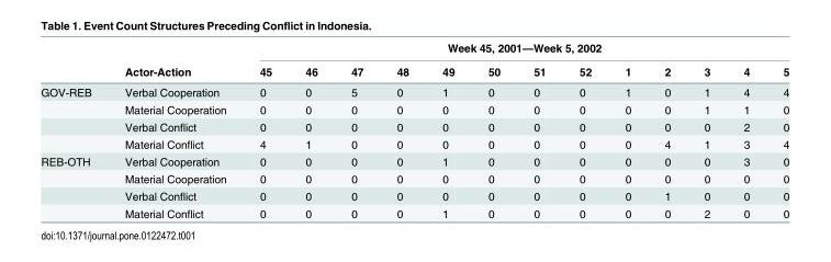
<table><thead><tr><td rowspan="2"></td><td rowspan="2">Actor-Action</td><td colspan="13">Week 45, 2001—Week 5, 2002</td></tr><tr><td>45</td><td>46</td><td>47</td><td>48</td><td>49</td><td>50</td><td>51</td><td>52</td><td>1</td><td>2</td><td>3</td><td>4</td><td>5</td></tr></thead><tbody><tr><td rowspan="4">GOV-REB</td><td>Verbal Cooperation</td><td>0</td><td>0</td><td>5</td><td>0</td><td>1</td><td>0</td><td>0</td><td>0</td><td>1</td><td>0</td><td>1</td><td>4</td><td>4</td></tr><tr><td>Material Cooperation</td><td>0</td><td>0</td><td>0</td><td>0</td><td>0</td><td>0</td><td>0</td><td>0</td><td>0</td><td>0</td><td>1</td><td>1</td><td>0</td></tr><tr><td>Verbal Conflict</td><td>0</td><td>0</td><td>0</td><td>0</td><td>0</td><td>0</td><td>0</td><td>0</td><td>0</td><td>0</td><td>0</td><td>2</td><td>0</td></tr><tr><td>Material Conflict</td><td>4</td><td>1</td><td>0</td><td>0</td><td>0</td><td>0</td><td>0</td><td>0</td><td>0</td><td>4</td><td>1</td><td>3</td><td>4</td></tr><tr><td rowspan="4">REB-OTH</td><td>Verbal Cooperation</td><td>0</td><td>0</td><td>0</td><td>0</td><td>1</td><td>0</td><td>0</td><td>0</td><td>0</td><td>0</td><td>0</td><td>3</td><td>0</td></tr><tr><td>Material Cooperation</td><td>0</td><td>0</td><td>0</td><td>0</td><td>0</td><td>0</td><td>0</td><td>0</td><td>0</td><td>0</td><td>0</td><td>0</td><td>0</td></tr><tr><td>Verbal Conflict</td><td>0</td><td>0</td><td>0</td><td>0</td><td>0</td><td>0</td><td>0</td><td>0</td><td>0</td><td>1</td><td>0</td><td>0</td><td>0</td></tr><tr><td>Material Conflict</td><td>0</td><td>0</td><td>0</td><td>0</td><td>1</td><td>0</td><td>0</td><td>0</td><td>0</td><td>0</td><td>2</td><td>0</td><td>0</td></tr></tbody></table>